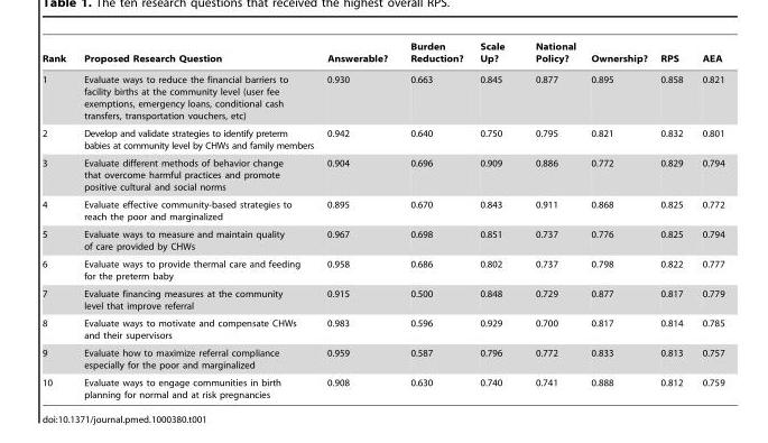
<table><thead><tr><td>Rank</td><td>Proposed Research Question</td><td>Answerable?</td><td>Burden Reduction?</td><td>Scale Up?</td><td>National Policy?</td><td>Ownership?</td><td>RPS</td><td>AEA</td></tr></thead><tbody><tr><td>1</td><td>Evaluate ways to reduce the financial barriers to facility births at the community level (user fee exemptions, emergency loans, conditional cash transfers, transportation vouchers, etc)</td><td>0.930</td><td>0.663</td><td>0.845</td><td>0.877</td><td>0.895</td><td>0.858</td><td>0.821</td></tr><tr><td>2</td><td>Develop and validate strategies to identify preterm babies at community level by CHWs and family members</td><td>0.942</td><td>0.640</td><td>0.750</td><td>0.795</td><td>0.821</td><td>0.832</td><td>0.801</td></tr><tr><td>3</td><td>Evaluate different methods of behavior change that overcome harmful practices and promote positive cultural and social norms</td><td>0.904</td><td>0.696</td><td>0.909</td><td>0.886</td><td>0.772</td><td>0.829</td><td>0.794</td></tr><tr><td>4</td><td>Evaluate effective community-based strategies to reach the poor and marginalized</td><td>0.895</td><td>0.670</td><td>0.843</td><td>0.911</td><td>0.868</td><td>0.825</td><td>0.772</td></tr><tr><td>5</td><td>Evaluate ways to measure and maintain quality of care provided by CHWs</td><td>0.967</td><td>0.698</td><td>0.851</td><td>0.737</td><td>0.776</td><td>0.825</td><td>0.794</td></tr><tr><td>6</td><td>Evaluate ways to provide thermal care and feeding for the preterm baby</td><td>0.958</td><td>0.686</td><td>0.802</td><td>0.737</td><td>0.798</td><td>0.822</td><td>0.777</td></tr><tr><td>7</td><td>Evaluate financing measures at the community level that improve referral</td><td>0.915</td><td>0.500</td><td>0.848</td><td>0.729</td><td>0.877</td><td>0.817</td><td>0.779</td></tr><tr><td>8</td><td>Evaluate ways to motivate and compensate CHWs and their supervisors</td><td>0.983</td><td>0.596</td><td>0.929</td><td>0.700</td><td>0.817</td><td>0.814</td><td>0.785</td></tr><tr><td>9</td><td>Evaluate how to maximize referral compliance especially for the poor and marginalized</td><td>0.959</td><td>0.587</td><td>0.796</td><td>0.772</td><td>0.833</td><td>0.813</td><td>0.757</td></tr><tr><td>10</td><td>Evaluate ways to engage communities in birth planning for normal and at risk pregnancies</td><td>0.908</td><td>0.630</td><td>0.740</td><td>0.741</td><td>0.888</td><td>0.812</td><td>0.759</td></tr></tbody></table>